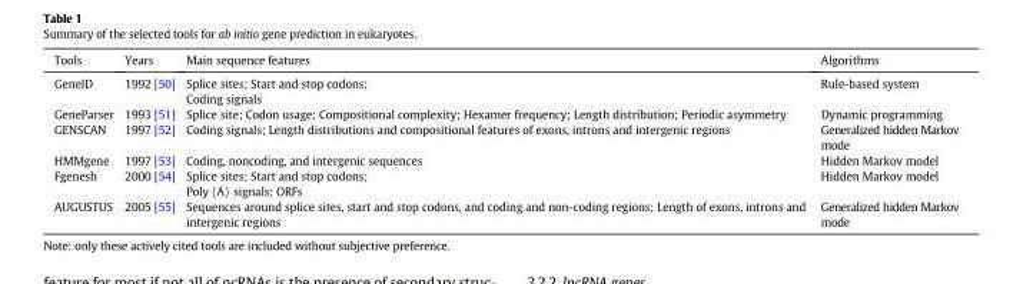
<table><thead><tr><td>Tools</td><td>Years</td><td>Main sequence features</td><td>Algorithms</td></tr></thead><tbody><tr><td>GeneID</td><td>1992 [50]</td><td>Splice sites; Start and stop codons; Coding signals</td><td>Rule-based system</td></tr><tr><td>GeneParser</td><td>1993 [51]</td><td>Splice site; Codon usage; Compositional complexity; Hexamer frequency; Length distribution; Periodic asymmetry</td><td>Dynamic programming</td></tr><tr><td>GENSCAN</td><td>1997 [52]</td><td>Coding signals; Length distributions and compositional features of exons, introns and intergenic regions</td><td>Generalized hidden Markov mode</td></tr><tr><td>HMMgene</td><td>1997 [53]</td><td>Coding, noncoding, and intergenic sequences</td><td>Hidden Markov model</td></tr><tr><td>Fgenesh</td><td>2000 [54]</td><td>Splice sites; Start and stop codons; Poly (A) signals; ORFs</td><td>Hidden Markov model</td></tr><tr><td>AUGUSTUS</td><td>2005 [55]</td><td>Sequences around splice sites, start and stop codons, and coding and non-coding regions; Length of exons, introns and intergenic regions</td><td>Generalized hidden Markov mode</td></tr></tbody></table>